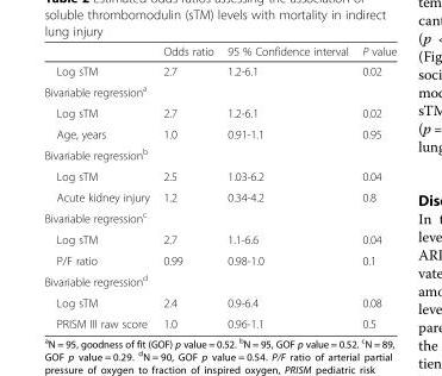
<table><thead><tr><td></td><td>Odds ratio</td><td>95 % Confidence interval</td><td>P value</td></tr></thead><tbody><tr><td>Log sTM</td><td>2.7</td><td>1.2-6.1</td><td>0.02</td></tr><tr><td colspan="4">Bivariable regression<sup>a</sup></td></tr><tr><td>Log sTM</td><td>2.7</td><td>1.2-6.1</td><td>0.02</td></tr><tr><td>Age, years</td><td>1.0</td><td>0.91-1.1</td><td>0.95</td></tr><tr><td colspan="4">Bivariable regression<sup>b</sup></td></tr><tr><td>Log sTM</td><td>2.5</td><td>1.03-6.2</td><td>0.04</td></tr><tr><td>Acute kidney injury</td><td>1.2</td><td>0.34-4.2</td><td>0.8</td></tr><tr><td colspan="4">Bivariable regression<sup>c</sup></td></tr><tr><td>Log sTM</td><td>2.7</td><td>1.1-6.6</td><td>0.04</td></tr><tr><td>P/F ratio</td><td>0.99</td><td>0.98-1.0</td><td>0.1</td></tr><tr><td colspan="4">Bivariable regression<sup>d</sup></td></tr><tr><td>Log sTM</td><td>2.4</td><td>0.9-6.4</td><td>0.08</td></tr><tr><td>PRISM III raw score</td><td>1.0</td><td>0.96-1.1</td><td>0.5</td></tr></tbody></table>